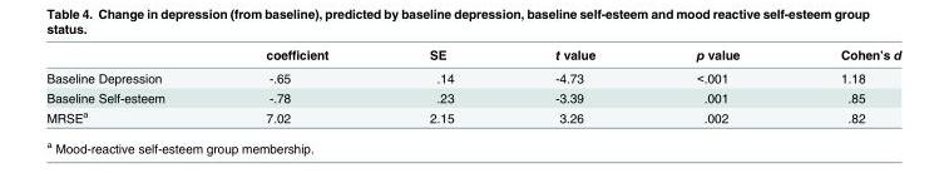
<table><thead><tr><td></td><td>coefficient</td><td>SE</td><td>t value</td><td>p value</td><td>Cohen’s d</td></tr></thead><tbody><tr><td>Baseline Depression</td><td>-.65</td><td>.14</td><td>-4.73</td><td>&lt;.001</td><td>1.18</td></tr><tr><td>Baseline Self-esteem</td><td>-.78</td><td>.23</td><td>-3.39</td><td>.001</td><td>.85</td></tr><tr><td>MRSE<sup>a</sup></td><td>7.02</td><td>2.15</td><td>3.26</td><td>.002</td><td>.82</td></tr></tbody></table>